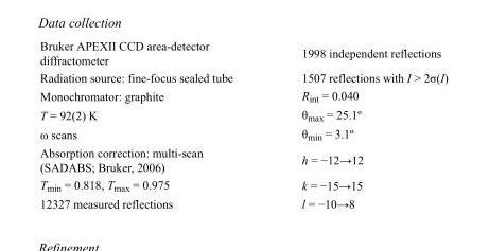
<table><tbody><tr><td>Bruker APEXII CCD area-detector diffractometer</td><td>1998 independent reflections</td></tr><tr><td>Radiation source: fine-focus sealed tube</td><td>1507 reflections with I &gt; 2σ(I)</td></tr><tr><td>Monochromator: graphite</td><td>R<sub>int</sub> = 0.040</td></tr><tr><td>T = 92(2) K</td><td>θ<sub>max</sub> = 25.1º</td></tr><tr><td>ω scans</td><td>θ<sub>min</sub> = 3.1º</td></tr><tr><td>Absorption correction: multi-scan (SADABS; Bruker, 2006)</td><td>h = −12→12</td></tr><tr><td>T<sub>min</sub> = 0.818, T<sub>max</sub> = 0.975</td><td>k = −15→15</td></tr><tr><td>12327 measured reflections</td><td>l = −10→8</td></tr></tbody></table>